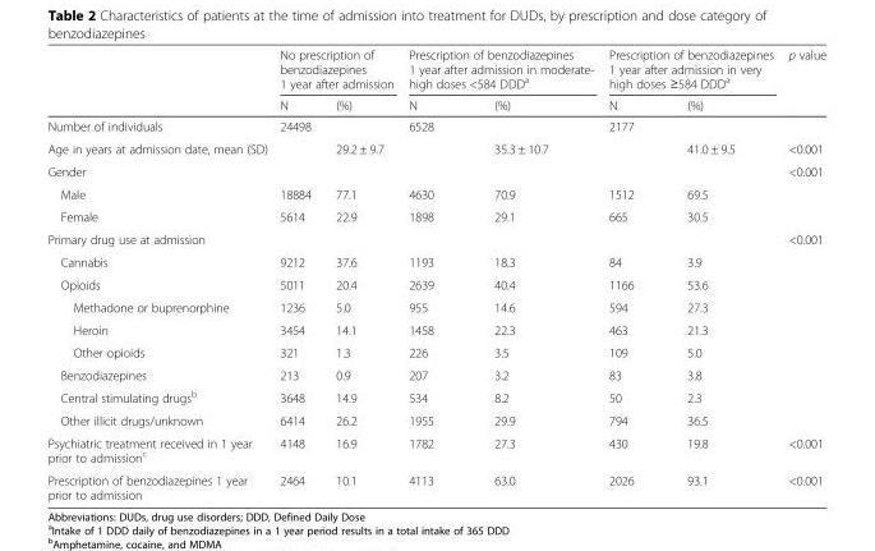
<table><thead><tr><td rowspan="2"></td><td colspan="2">No prescription of benzodiazepines 1 year after admission</td><td colspan="2">Prescription of benzodiazepines 1 year after admission in moderate- high doses &lt;584 DDD<sup>a</sup></td><td colspan="2">Prescription of benzodiazepines 1 year after admission in very high doses ≥584 DDD<sup>a</sup></td><td rowspan="2">p value</td></tr><tr><td>N</td><td>(%)</td><td>N</td><td>(%)</td><td>N</td><td>(%)</td></tr></thead><tbody><tr><td>Number of individuals</td><td>24498</td><td></td><td>6528</td><td></td><td>2177</td><td></td><td></td></tr><tr><td>Age in years at admission date, mean (SD)</td><td></td><td>29.2 ± 9.7</td><td></td><td>35.3 ± 10.7</td><td></td><td>41.0 ± 9.5</td><td>&lt;0.001</td></tr><tr><td>Gender</td><td></td><td></td><td></td><td></td><td></td><td></td><td>&lt;0.001</td></tr><tr><td>Male</td><td>18884</td><td>77.1</td><td>4630</td><td>70.9</td><td>1512</td><td>69.5</td><td></td></tr><tr><td>Female</td><td>5614</td><td>22.9</td><td>1898</td><td>29.1</td><td>665</td><td>30.5</td><td></td></tr><tr><td>Primary drug use at admission</td><td></td><td></td><td></td><td></td><td></td><td></td><td>&lt;0.001</td></tr><tr><td>Cannabis</td><td>9212</td><td>37.6</td><td>1193</td><td>18.3</td><td>84</td><td>3.9</td><td></td></tr><tr><td>Opioids</td><td>5011</td><td>20.4</td><td>2639</td><td>40.4</td><td>1166</td><td>53.6</td><td></td></tr><tr><td>Methadone or buprenorphine</td><td>1236</td><td>5.0</td><td>955</td><td>14.6</td><td>594</td><td>27.3</td><td></td></tr><tr><td>Heroin</td><td>3454</td><td>14.1</td><td>1458</td><td>22.3</td><td>463</td><td>21.3</td><td></td></tr><tr><td>Other opioids</td><td>321</td><td>1.3</td><td>226</td><td>3.5</td><td>109</td><td>5.0</td><td></td></tr><tr><td>Benzodiazepines</td><td>213</td><td>0.9</td><td>207</td><td>3.2</td><td>83</td><td>3.8</td><td></td></tr><tr><td>Central stimulating drugs<sup>b</sup></td><td>3648</td><td>14.9</td><td>534</td><td>8.2</td><td>50</td><td>2.3</td><td></td></tr><tr><td>Other illicit drugs/unknown</td><td>6414</td><td>26.2</td><td>1955</td><td>29.9</td><td>794</td><td>36.5</td><td></td></tr><tr><td>Psychiatric treatment received in 1 year prior to admission<sup>c</sup></td><td>4148</td><td>16.9</td><td>1782</td><td>27.3</td><td>430</td><td>19.8</td><td>&lt;0.001</td></tr><tr><td>Prescription of benzodiazepines 1 year prior to admission</td><td>2464</td><td>10.1</td><td>4113</td><td>63.0</td><td>2026</td><td>93.1</td><td>&lt;0.001</td></tr></tbody></table>